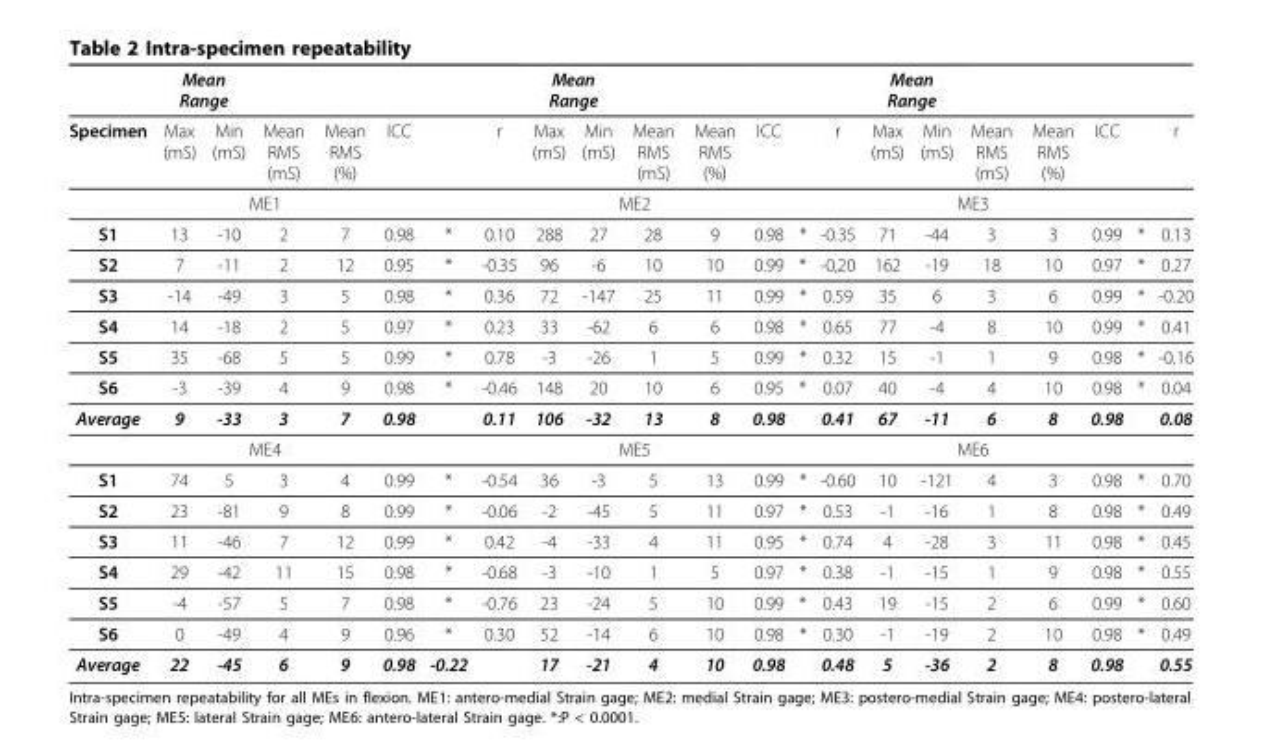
<table><thead><tr><td rowspan="2">Specimen</td><td colspan="2">Mean Range</td><td rowspan="2">Mean RMS (mS)</td><td rowspan="2">Mean RMS (%)</td><td rowspan="2">ICC</td><td rowspan="2"></td><td rowspan="2">r</td><td colspan="2">Mean Range</td><td rowspan="2">Mean RMS (mS)</td><td rowspan="2">Mean RMS (%)</td><td rowspan="2">ICC</td><td rowspan="2"></td><td rowspan="2">r</td><td colspan="2">Mean Range</td><td rowspan="2">Mean RMS (mS)</td><td rowspan="2">Mean RMS (%)</td><td rowspan="2">ICC</td><td rowspan="2"></td><td rowspan="2">r</td></tr><tr><td>Max (mS)</td><td>Min (mS)</td><td>Max (mS)</td><td>Min (mS)</td><td>Max (mS)</td><td>Min (mS)</td></tr></thead><tbody><tr><td></td><td colspan="4">ME1</td><td></td><td></td><td></td><td colspan="4">ME2</td><td></td><td></td><td></td><td colspan="4">ME3</td><td></td><td></td><td></td></tr><tr><td>S1</td><td>13</td><td>-10</td><td>2</td><td>7</td><td>0.98</td><td>*</td><td>0.10</td><td>288</td><td>27</td><td>28</td><td>9</td><td>0.98</td><td>*</td><td>-0.35</td><td>71</td><td>-44</td><td>3</td><td>3</td><td>0.99</td><td>*</td><td>0.13</td></tr><tr><td>S2</td><td>7</td><td>-11</td><td>2</td><td>12</td><td>0.95</td><td>*</td><td>-0.35</td><td>96</td><td>-6</td><td>10</td><td>10</td><td>0.99</td><td>*</td><td>-0,20</td><td>162</td><td>-19</td><td>18</td><td>10</td><td>0.97</td><td>*</td><td>0.27</td></tr><tr><td>S3</td><td>-14</td><td>-49</td><td>3</td><td>5</td><td>0.98</td><td>*</td><td>0.36</td><td>72</td><td>-147</td><td>25</td><td>11</td><td>0.99</td><td>*</td><td>0.59</td><td>35</td><td>6</td><td>3</td><td>6</td><td>0.99</td><td>*</td><td>-0.20</td></tr><tr><td>S4</td><td>14</td><td>-18</td><td>2</td><td>5</td><td>0.97</td><td>*</td><td>0.23</td><td>33</td><td>-62</td><td>6</td><td>6</td><td>0.98</td><td>*</td><td>0.65</td><td>77</td><td>-4</td><td>8</td><td>10</td><td>0.99</td><td>*</td><td>0.41</td></tr><tr><td>S5</td><td>35</td><td>-68</td><td>5</td><td>5</td><td>0.99</td><td>*</td><td>0.78</td><td>-3</td><td>-26</td><td>1</td><td>5</td><td>0.99</td><td>*</td><td>0.32</td><td>15</td><td>-1</td><td>1</td><td>9</td><td>0.98</td><td>*</td><td>-0.16</td></tr><tr><td>S6</td><td>-3</td><td>-39</td><td>4</td><td>9</td><td>0.98</td><td>*</td><td>-0.46</td><td>148</td><td>20</td><td>10</td><td>6</td><td>0.95</td><td>*</td><td>0.07</td><td>40</td><td>-4</td><td>4</td><td>10</td><td>0.98</td><td>*</td><td>0.04</td></tr><tr><td rowspan="2">Average</td><td>9</td><td>-33</td><td>3</td><td>7</td><td>0.98</td><td></td><td>0.11</td><td>106</td><td>-32</td><td>13</td><td>8</td><td>0.98</td><td></td><td>0.41</td><td>67</td><td>-11</td><td>6</td><td>8</td><td>0.98</td><td></td><td>0.08</td></tr><tr><td colspan="4">ME4</td><td></td><td></td><td></td><td colspan="4">ME5</td><td></td><td></td><td></td><td colspan="4">ME6</td><td></td><td></td><td></td></tr><tr><td>S1</td><td>74</td><td>5</td><td>3</td><td>4</td><td>0.99</td><td>*</td><td>-0.54</td><td>36</td><td>-3</td><td>5</td><td>13</td><td>0.99</td><td>*</td><td>-0.60</td><td>10</td><td>-121</td><td>4</td><td>3</td><td>0.98</td><td>*</td><td>0.70</td></tr><tr><td>S2</td><td>23</td><td>-81</td><td>9</td><td>8</td><td>0.99</td><td>*</td><td>-0.06</td><td>-2</td><td>-45</td><td>5</td><td>11</td><td>0.97</td><td>*</td><td>0.53</td><td>-1</td><td>-16</td><td>1</td><td>8</td><td>0.98</td><td>*</td><td>0.49</td></tr><tr><td>S3</td><td>11</td><td>-46</td><td>7</td><td>12</td><td>0.99</td><td>*</td><td>0.42</td><td>-4</td><td>-33</td><td>4</td><td>11</td><td>0.95</td><td>*</td><td>0.74</td><td>4</td><td>-28</td><td>3</td><td>11</td><td>0.98</td><td>*</td><td>0.45</td></tr><tr><td>S4</td><td>29</td><td>-42</td><td>11</td><td>15</td><td>0.98</td><td>*</td><td>-0.68</td><td>-3</td><td>-10</td><td>1</td><td>5</td><td>0.97</td><td>*</td><td>0.38</td><td>-1</td><td>-15</td><td>1</td><td>9</td><td>0.98</td><td>*</td><td>0.55</td></tr><tr><td>S5</td><td>-4</td><td>-57</td><td>5</td><td>7</td><td>0.98</td><td>*</td><td>-0.76</td><td>23</td><td>-24</td><td>5</td><td>10</td><td>0.99</td><td>*</td><td>0.43</td><td>19</td><td>-15</td><td>2</td><td>6</td><td>0.99</td><td>*</td><td>0.60</td></tr><tr><td>S6</td><td>0</td><td>-49</td><td>4</td><td>9</td><td>0.96</td><td>*</td><td>0.30</td><td>52</td><td>-14</td><td>6</td><td>10</td><td>0.98</td><td>*</td><td>0.30</td><td>-1</td><td>-19</td><td>2</td><td>10</td><td>0.98</td><td>*</td><td>0.49</td></tr><tr><td>Average</td><td>22</td><td>-45</td><td>6</td><td>9</td><td>0.98</td><td>-0.22</td><td></td><td>17</td><td>-21</td><td>4</td><td>10</td><td>0.98</td><td></td><td>0.48</td><td>5</td><td>-36</td><td>2</td><td>8</td><td>0.98</td><td></td><td>0.55</td></tr></tbody></table>